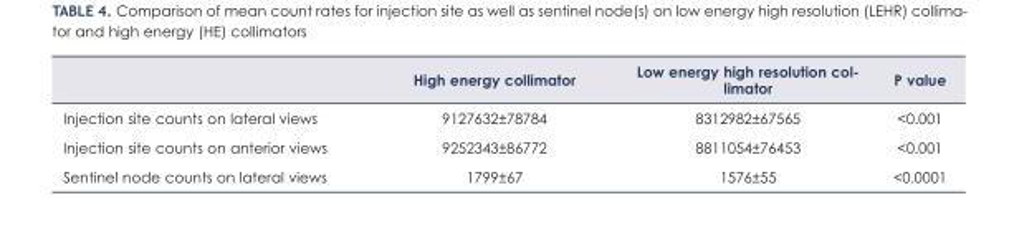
<table><thead><tr><td></td><td>High energy collimator</td><td>Low energy high resolution col- limator</td><td>P value</td></tr></thead><tbody><tr><td>Injection site counts on lateral views</td><td>9127632±78784</td><td>8312982±67565</td><td>&lt;0.001</td></tr><tr><td>Injection site counts on anterior views</td><td>9252343±86772</td><td>8811054±76453</td><td>&lt;0.001</td></tr><tr><td>Sentinel node counts on lateral views</td><td>1799±67</td><td>1576±55</td><td>&lt;0.0001</td></tr></tbody></table>